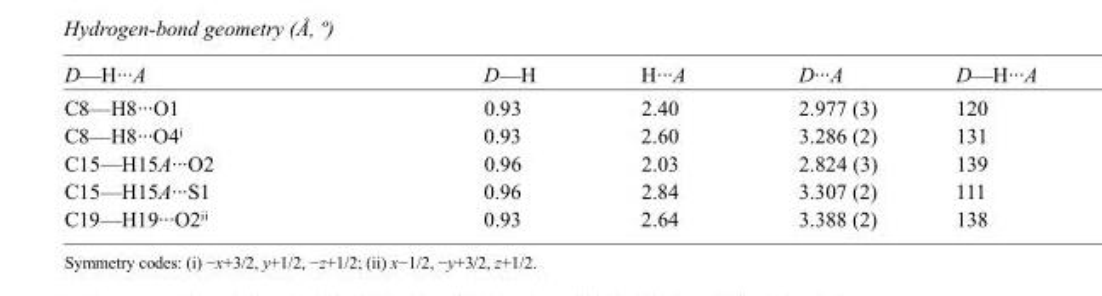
<table><tbody><tr><td>D—H···A</td><td>D—H</td><td>H···A</td><td>D···A</td><td>D—H···A</td></tr><tr><td>C8—H8···O1</td><td>0.93</td><td>2.40</td><td>2.977 (3)</td><td>120</td></tr><tr><td>C8—H8···O4<sup>i</sup></td><td>0.93</td><td>2.60</td><td>3.286 (2)</td><td>131</td></tr><tr><td>C15—H15A···O2</td><td>0.96</td><td>2.03</td><td>2.824 (3)</td><td>139</td></tr><tr><td>C15—H15A···S1</td><td>0.96</td><td>2.84</td><td>3.307 (2)</td><td>111</td></tr><tr><td>C19—H19···O2<sup>ii</sup></td><td>0.93</td><td>2.64</td><td>3.388 (2)</td><td>138</td></tr></tbody></table>